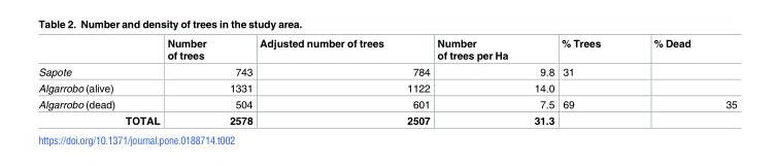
<table><thead><tr><td></td><td>Number of trees</td><td>Adjusted number of trees</td><td>Number of trees per Ha</td><td>% Trees</td><td>% Dead</td></tr></thead><tbody><tr><td>Sapote</td><td>743</td><td>784</td><td>9.8</td><td>31</td><td></td></tr><tr><td>Algarrobo (alive)</td><td>1331</td><td>1122</td><td>14.0</td><td></td><td></td></tr><tr><td>Algarrobo (dead)</td><td>504</td><td>601</td><td>7.5</td><td>69</td><td>35</td></tr><tr><td>TOTAL</td><td>2578</td><td>2507</td><td>31.3</td><td></td><td></td></tr></tbody></table>